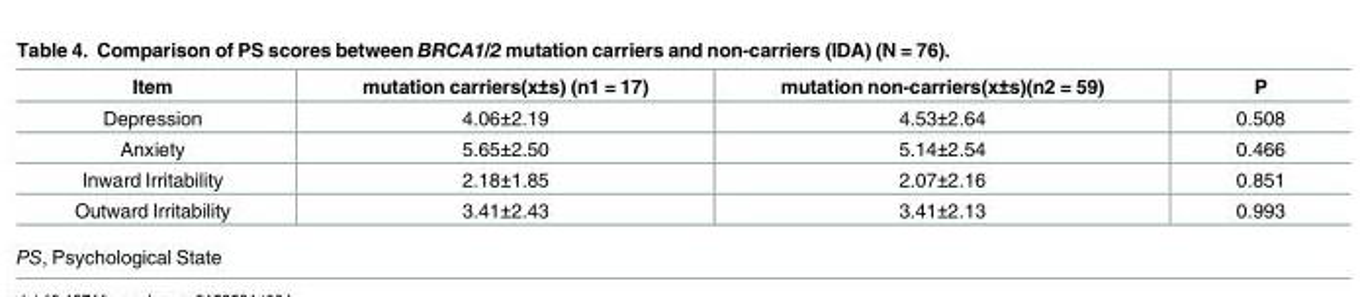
<table><thead><tr><td>Item</td><td>mutation carriers(x±s) (n1 = 17)</td><td>mutation non-carriers(x±s)(n2 = 59)</td><td>P</td></tr></thead><tbody><tr><td>Depression</td><td>4.06±2.19</td><td>4.53±2.64</td><td>0.508</td></tr><tr><td>Anxiety</td><td>5.65±2.50</td><td>5.14±2.54</td><td>0.466</td></tr><tr><td>Inward Irritability</td><td>2.18±1.85</td><td>2.07±2.16</td><td>0.851</td></tr><tr><td>Outward Irritability</td><td>3.41±2.43</td><td>3.41±2.13</td><td>0.993</td></tr></tbody></table>